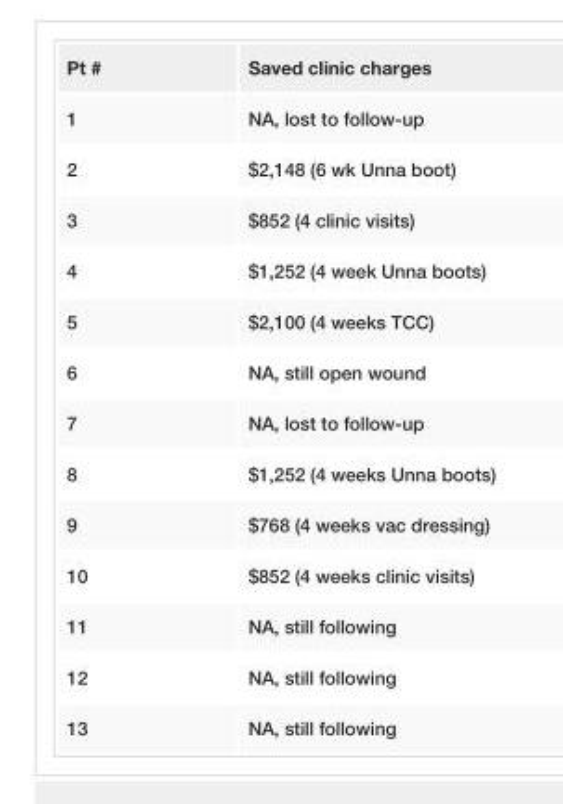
<table><tbody><tr><td>Pt #</td><td>Saved clinic charges</td></tr><tr><td>1</td><td>NA, lost to follow-up</td></tr><tr><td>2</td><td>$2,148 (6 wk Unna boot)</td></tr><tr><td>3</td><td>$852 (4 clinic visits)</td></tr><tr><td>4</td><td>$1,252 (4 week Unna boots)</td></tr><tr><td>5</td><td>$2,100 (4 weeks TCC)</td></tr><tr><td>6</td><td>NA, still open wound</td></tr><tr><td>7</td><td>NA, lost to follow-up</td></tr><tr><td>8</td><td>$1,252 (4 weeks Unna boots)</td></tr><tr><td>9</td><td>$768 (4 weeks vac dressing)</td></tr><tr><td>10</td><td>$852 (4 weeks clinic visits)</td></tr><tr><td>11</td><td>NA, still following</td></tr><tr><td>12</td><td>NA, still following</td></tr><tr><td>13</td><td>NA, still following</td></tr></tbody></table>